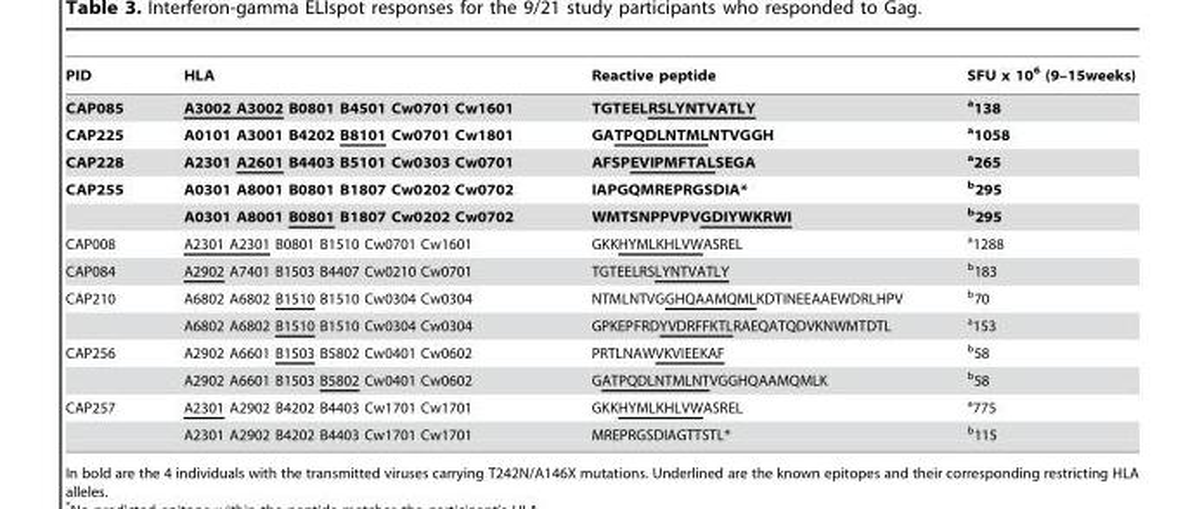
<table><thead><tr><td>PID</td><td>HLA</td><td>Reactive peptide</td><td>SFU x 10<sup>6</sup> (9–15weeks)</td></tr></thead><tbody><tr><td>CAP085</td><td>A3002 A3002 B0801 B4501 Cw0701 Cw1601</td><td>TGTEELRSLYNTVATLY</td><td>a138</td></tr><tr><td>CAP225</td><td>A0101 A3001 B4202 B8101 Cw0701 Cw1801</td><td>GATPQDLNTMLNTVGGH</td><td>a1058</td></tr><tr><td>CAP228</td><td>A2301 A2601 B4403 B5101 Cw0303 Cw0701</td><td>AFSPEVIPMFTALSEGA</td><td>a265</td></tr><tr><td rowspan="2">CAP255</td><td>A0301 A8001 B0801 B1807 Cw0202 Cw0702</td><td>IAPGQMREPRGSDIA*</td><td>b295</td></tr><tr><td>A0301 A8001 B0801 B1807 Cw0202 Cw0702</td><td>WMTSNPPVPVGDIYWKRWI</td><td>b295</td></tr><tr><td>CAP008</td><td>A2301 A2301 B0801 B1510 Cw0701 Cw1601</td><td>GKKHYMLKHLVWASREL</td><td>a1288</td></tr><tr><td>CAP084</td><td>A2902 A7401 B1503 B4407 Cw0210 Cw0701</td><td>TGTEELRSLYNTVATLY</td><td>b183</td></tr><tr><td rowspan="2">CAP210</td><td>A6802 A6802 B1510 B1510 Cw0304 Cw0304</td><td>NTMLNTVGGHQAAMQMLKDTINEEAAEWDRLHPV</td><td>b70</td></tr><tr><td>A6802 A6802 B1510 B1510 Cw0304 Cw0304</td><td>GPKEPFRDYVDRFFKTLRAEQATQDVKNWMTDTL</td><td>a153</td></tr><tr><td rowspan="2">CAP256</td><td>A2902 A6601 B1503 B5802 Cw0401 Cw0602</td><td>PRTLNAWVKVIEEKAF</td><td>b58</td></tr><tr><td>A2902 A6601 B1503 B5802 Cw0401 Cw0602</td><td>GATPQDLNTMLNTVGGHQAAMQMLK</td><td>b58</td></tr><tr><td rowspan="2">CAP257</td><td>A2301 A2902 B4202 B4403 Cw1701 Cw1701</td><td>GKKHYMLKHLVWASREL</td><td>a775</td></tr><tr><td>A2301 A2902 B4202 B4403 Cw1701 Cw1701</td><td>MREPRGSDIAGTTSTL*</td><td>b115</td></tr></tbody></table>